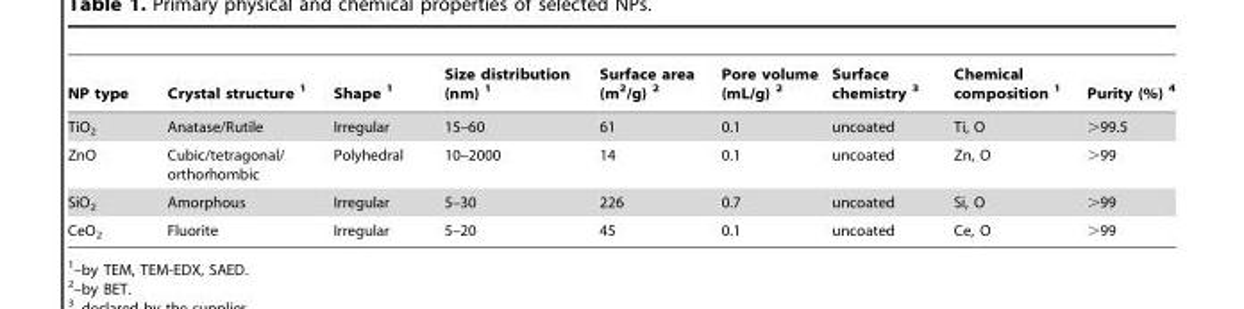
<table><thead><tr><td>NP type</td><td>Crystal structure 1</td><td>Shape 1</td><td>Size distribution (nm) 1</td><td>Surface area (m<sup>2</sup>/g) 2</td><td>Pore volume (mL/g) 2</td><td>Surface chemistry 3</td><td>Chemical composition 1</td><td>Purity (%) 4</td></tr></thead><tbody><tr><td>TiO<sub>2</sub></td><td>Anatase/Rutile</td><td>Irregular</td><td>15–60</td><td>61</td><td>0.1</td><td>uncoated</td><td>Ti, O</td><td>&gt;99.5</td></tr><tr><td>ZnO</td><td>Cubic/tetragonal/ orthorhombic</td><td>Polyhedral</td><td>10–2000</td><td>14</td><td>0.1</td><td>uncoated</td><td>Zn, O</td><td>&gt;99</td></tr><tr><td>SiO<sub>2</sub></td><td>Amorphous</td><td>Irregular</td><td>5–30</td><td>226</td><td>0.7</td><td>uncoated</td><td>Si, O</td><td>&gt;99</td></tr><tr><td>CeO<sub>2</sub></td><td>Fluorite</td><td>Irregular</td><td>5–20</td><td>45</td><td>0.1</td><td>uncoated</td><td>Ce, O</td><td>&gt;99</td></tr></tbody></table>